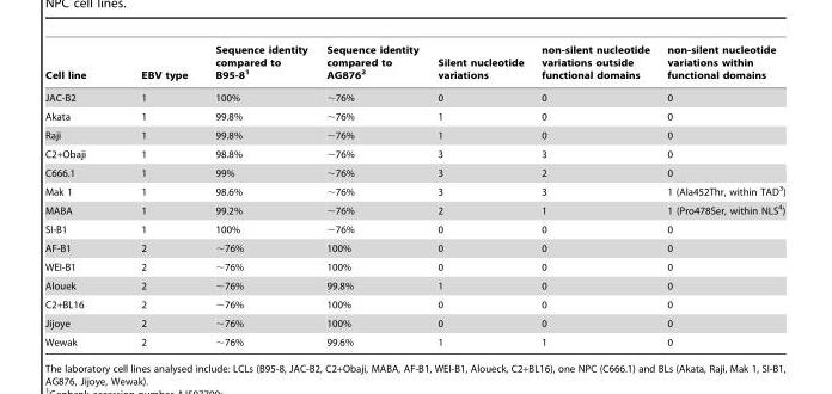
<table><thead><tr><td>Cell line</td><td>EBV type</td><td>Sequence identity compared to B95-8<sup>1</sup></td><td>Sequence identity compared to AG876<sup>2</sup></td><td>Silent nucleotide variations</td><td>non-silent nucleotide variations outside functional domains</td><td>non-silent nucleotide variations within functional domains</td></tr></thead><tbody><tr><td>JAC-B2</td><td>1</td><td>100%</td><td>∼76%</td><td>0</td><td>0</td><td>0</td></tr><tr><td>Akata</td><td>1</td><td>99.8%</td><td>∼76%</td><td>1</td><td>0</td><td>0</td></tr><tr><td>Raji</td><td>1</td><td>99.8%</td><td>∼76%</td><td>1</td><td>0</td><td>0</td></tr><tr><td>C2+Obaji</td><td>1</td><td>98.8%</td><td>∼76%</td><td>3</td><td>3</td><td>0</td></tr><tr><td>C666.1</td><td>1</td><td>99%</td><td>∼76%</td><td>3</td><td>2</td><td>0</td></tr><tr><td>Mak 1</td><td>1</td><td>98.6%</td><td>∼76%</td><td>3</td><td>3</td><td>1 (Ala452Thr, within TAD<sup>3</sup>)</td></tr><tr><td>MABA</td><td>1</td><td>99.2%</td><td>∼76%</td><td>2</td><td>1</td><td>1 (Pro478Ser, within NLS<sup>4</sup>)</td></tr><tr><td>SI-B1</td><td>1</td><td>100%</td><td>∼76%</td><td>0</td><td>0</td><td>0</td></tr><tr><td>AF-B1</td><td>2</td><td>∼76%</td><td>100%</td><td>0</td><td>0</td><td>0</td></tr><tr><td>WEI-B1</td><td>2</td><td>∼76%</td><td>100%</td><td>0</td><td>0</td><td>0</td></tr><tr><td>Alouek</td><td>2</td><td>∼76%</td><td>99.8%</td><td>1</td><td>0</td><td>0</td></tr><tr><td>C2+BL16</td><td>2</td><td>∼76%</td><td>100%</td><td>0</td><td>0</td><td>0</td></tr><tr><td>Jijoye</td><td>2</td><td>∼76%</td><td>100%</td><td>0</td><td>0</td><td>0</td></tr><tr><td>Wewak</td><td>2</td><td>∼76%</td><td>99.6%</td><td>1</td><td>1</td><td>0</td></tr></tbody></table>